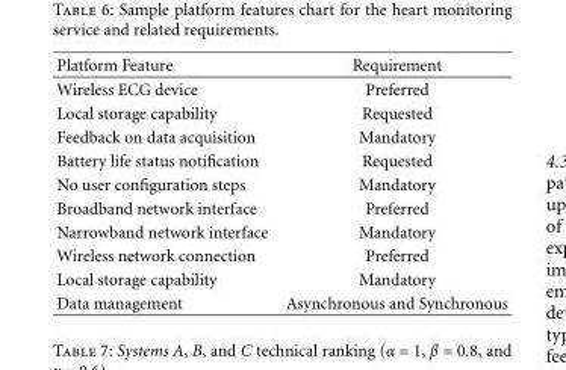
<table><thead><tr><td>Platform Feature</td><td>Requirement</td></tr></thead><tbody><tr><td>Wireless ECG device</td><td>Preferred</td></tr><tr><td>Local storage capability</td><td>Requested</td></tr><tr><td>Feedback on data acquisition</td><td>Mandatory</td></tr><tr><td>Battery life status notification</td><td>Requested</td></tr><tr><td>No user configuration steps</td><td>Mandatory</td></tr><tr><td>Broadband network interface</td><td>Preferred</td></tr><tr><td>Narrowband network interface</td><td>Mandatory</td></tr><tr><td>Wireless network connection</td><td>Preferred</td></tr><tr><td>Local storage capability</td><td>Mandatory</td></tr><tr><td>Data management</td><td>Asynchronous and Synchronous</td></tr></tbody></table>